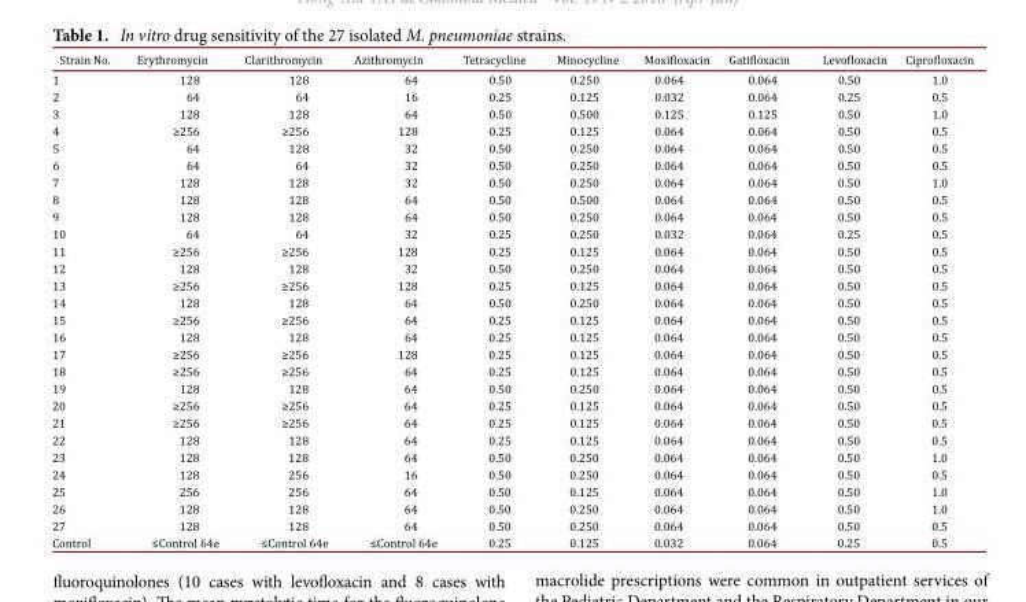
<table><thead><tr><td>Strain No.</td><td>Erythromycin</td><td>Clarithromycin</td><td>Azithromycin</td><td>Tetracycline</td><td>Minocycline</td><td>Moxifloxacin</td><td>Gatifloxacin</td><td>Levofloxacin</td><td>Ciprofloxacin</td></tr></thead><tbody><tr><td>1</td><td>128</td><td>128</td><td>64</td><td>0.50</td><td>0.250</td><td>0.064</td><td>0.064</td><td>0.50</td><td>1.0</td></tr><tr><td>2</td><td>64</td><td>64</td><td>16</td><td>0.25</td><td>0.125</td><td>0.032</td><td>0.064</td><td>0.25</td><td>0.5</td></tr><tr><td>3</td><td>128</td><td>128</td><td>64</td><td>0.50</td><td>0.500</td><td>0.125</td><td>0.125</td><td>0.50</td><td>1.0</td></tr><tr><td>4</td><td>≥256</td><td>≥256</td><td>128</td><td>0.25</td><td>0.125</td><td>0.064</td><td>0.064</td><td>0.50</td><td>0.5</td></tr><tr><td>5</td><td>64</td><td>128</td><td>32</td><td>0.50</td><td>0.250</td><td>0.064</td><td>0.064</td><td>0.50</td><td>0.5</td></tr><tr><td>6</td><td>64</td><td>64</td><td>32</td><td>0.50</td><td>0.250</td><td>0.064</td><td>0.064</td><td>0.50</td><td>0.5</td></tr><tr><td>7</td><td>128</td><td>128</td><td>32</td><td>0.50</td><td>0.250</td><td>0.064</td><td>0.064</td><td>0.50</td><td>1.0</td></tr><tr><td>8</td><td>128</td><td>128</td><td>64</td><td>0.50</td><td>0.500</td><td>0.064</td><td>0.064</td><td>0.50</td><td>0.5</td></tr><tr><td>9</td><td>128</td><td>128</td><td>64</td><td>0.50</td><td>0.250</td><td>0.064</td><td>0.064</td><td>0.50</td><td>0.5</td></tr><tr><td>10</td><td>64</td><td>64</td><td>32</td><td>0.25</td><td>0.250</td><td>0.032</td><td>0.064</td><td>0.25</td><td>0.5</td></tr><tr><td>11</td><td>≥256</td><td>≥256</td><td>128</td><td>0.25</td><td>0.125</td><td>0.064</td><td>0.064</td><td>0.50</td><td>0.5</td></tr><tr><td>12</td><td>128</td><td>128</td><td>32</td><td>0.50</td><td>0.250</td><td>0.064</td><td>0.064</td><td>0.50</td><td>0.5</td></tr><tr><td>13</td><td>≥256</td><td>≥256</td><td>128</td><td>0.25</td><td>0.125</td><td>0.064</td><td>0.064</td><td>0.50</td><td>0.5</td></tr><tr><td>14</td><td>128</td><td>128</td><td>64</td><td>0.50</td><td>0.250</td><td>0.064</td><td>0.064</td><td>0.50</td><td>0.5</td></tr><tr><td>15</td><td>≥256</td><td>≥256</td><td>64</td><td>0.25</td><td>0.125</td><td>0.064</td><td>0.064</td><td>0.50</td><td>0.5</td></tr><tr><td>16</td><td>128</td><td>128</td><td>64</td><td>0.25</td><td>0.125</td><td>0.064</td><td>0.064</td><td>0.50</td><td>0.5</td></tr><tr><td>17</td><td>≥256</td><td>≥256</td><td>128</td><td>0.25</td><td>0.125</td><td>0.064</td><td>0.064</td><td>0.50</td><td>0.5</td></tr><tr><td>18</td><td>≥256</td><td>≥256</td><td>64</td><td>0.25</td><td>0.125</td><td>0.064</td><td>0.064</td><td>0.50</td><td>0.5</td></tr><tr><td>19</td><td>128</td><td>128</td><td>64</td><td>0.50</td><td>0.250</td><td>0.064</td><td>0.064</td><td>0.50</td><td>0.5</td></tr><tr><td>20</td><td>≥256</td><td>≥256</td><td>64</td><td>0.25</td><td>0.125</td><td>0.064</td><td>0.064</td><td>0.50</td><td>0.5</td></tr><tr><td>21</td><td>≥256</td><td>≥256</td><td>64</td><td>0.25</td><td>0.125</td><td>0.064</td><td>0.064</td><td>0.50</td><td>0.5</td></tr><tr><td>22</td><td>128</td><td>128</td><td>64</td><td>0.25</td><td>0.125</td><td>0.064</td><td>0.064</td><td>0.50</td><td>0.5</td></tr><tr><td>23</td><td>128</td><td>128</td><td>64</td><td>0.50</td><td>0.250</td><td>0.064</td><td>0.064</td><td>0.50</td><td>1.0</td></tr><tr><td>24</td><td>128</td><td>256</td><td>16</td><td>0.50</td><td>0.250</td><td>0.064</td><td>0.064</td><td>0.50</td><td>0.5</td></tr><tr><td>25</td><td>256</td><td>256</td><td>64</td><td>0.50</td><td>0.125</td><td>0.064</td><td>0.064</td><td>0.50</td><td>1.0</td></tr><tr><td>26</td><td>128</td><td>128</td><td>64</td><td>0.50</td><td>0.250</td><td>0.064</td><td>0.064</td><td>0.50</td><td>1.0</td></tr><tr><td>27</td><td>128</td><td>128</td><td>64</td><td>0.50</td><td>0.250</td><td>0.064</td><td>0.064</td><td>0.50</td><td>0.5</td></tr><tr><td>Control</td><td>≤Control 64e</td><td>≤Control 64e</td><td>≤Control 64e</td><td>0.25</td><td>0.125</td><td>0.032</td><td>0.064</td><td>0.25</td><td>0.5</td></tr></tbody></table>